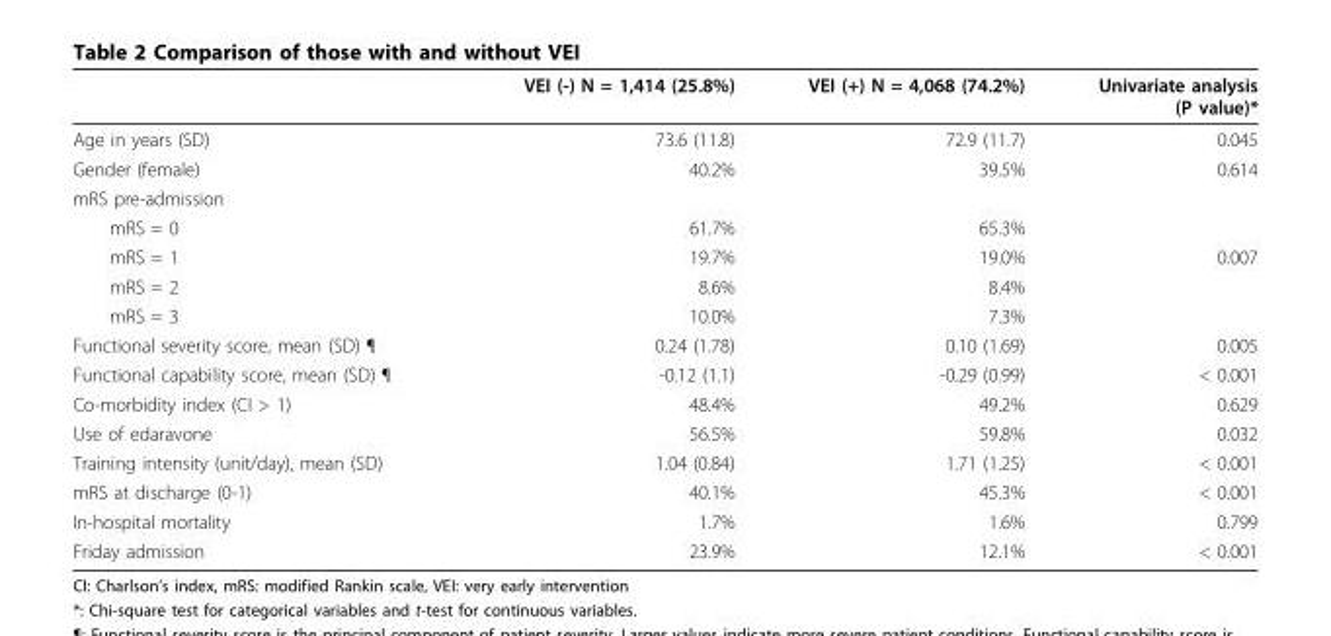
<table><thead><tr><td></td><td>VEI (-) N = 1,414 (25.8%)</td><td>VEI (+) N = 4,068 (74.2%)</td><td>Univariate analysis (P value)*</td></tr></thead><tbody><tr><td>Age in years (SD)</td><td>73.6 (11.8)</td><td>72.9 (11.7)</td><td>0.045</td></tr><tr><td>Gender (female)</td><td>40.2%</td><td>39.5%</td><td>0.614</td></tr><tr><td colspan="4">mRS pre-admission</td></tr><tr><td>mRS = 0</td><td>61.7%</td><td>65.3%</td><td></td></tr><tr><td>mRS = 1</td><td>19.7%</td><td>19.0%</td><td>0.007</td></tr><tr><td>mRS = 2</td><td>8.6%</td><td>8.4%</td><td></td></tr><tr><td>mRS = 3</td><td>10.0%</td><td>7.3%</td><td></td></tr><tr><td>Functional severity score, mean (SD) ¶</td><td>0.24 (1.78)</td><td>0.10 (1.69)</td><td>0.005</td></tr><tr><td>Functional capability score, mean (SD) ¶</td><td>-0.12 (1.1)</td><td>-0.29 (0.99)</td><td>&lt; 0.001</td></tr><tr><td>Co-morbidity index (CI &gt; 1)</td><td>48.4%</td><td>49.2%</td><td>0.629</td></tr><tr><td>Use of edaravone</td><td>56.5%</td><td>59.8%</td><td>0.032</td></tr><tr><td>Training intensity (unit/day), mean (SD)</td><td>1.04 (0.84)</td><td>1.71 (1.25)</td><td>&lt; 0.001</td></tr><tr><td>mRS at discharge (0-1)</td><td>40.1%</td><td>45.3%</td><td>&lt; 0.001</td></tr><tr><td>In-hospital mortality</td><td>1.7%</td><td>1.6%</td><td>0.799</td></tr><tr><td>Friday admission</td><td>23.9%</td><td>12.1%</td><td>&lt; 0.001</td></tr></tbody></table>